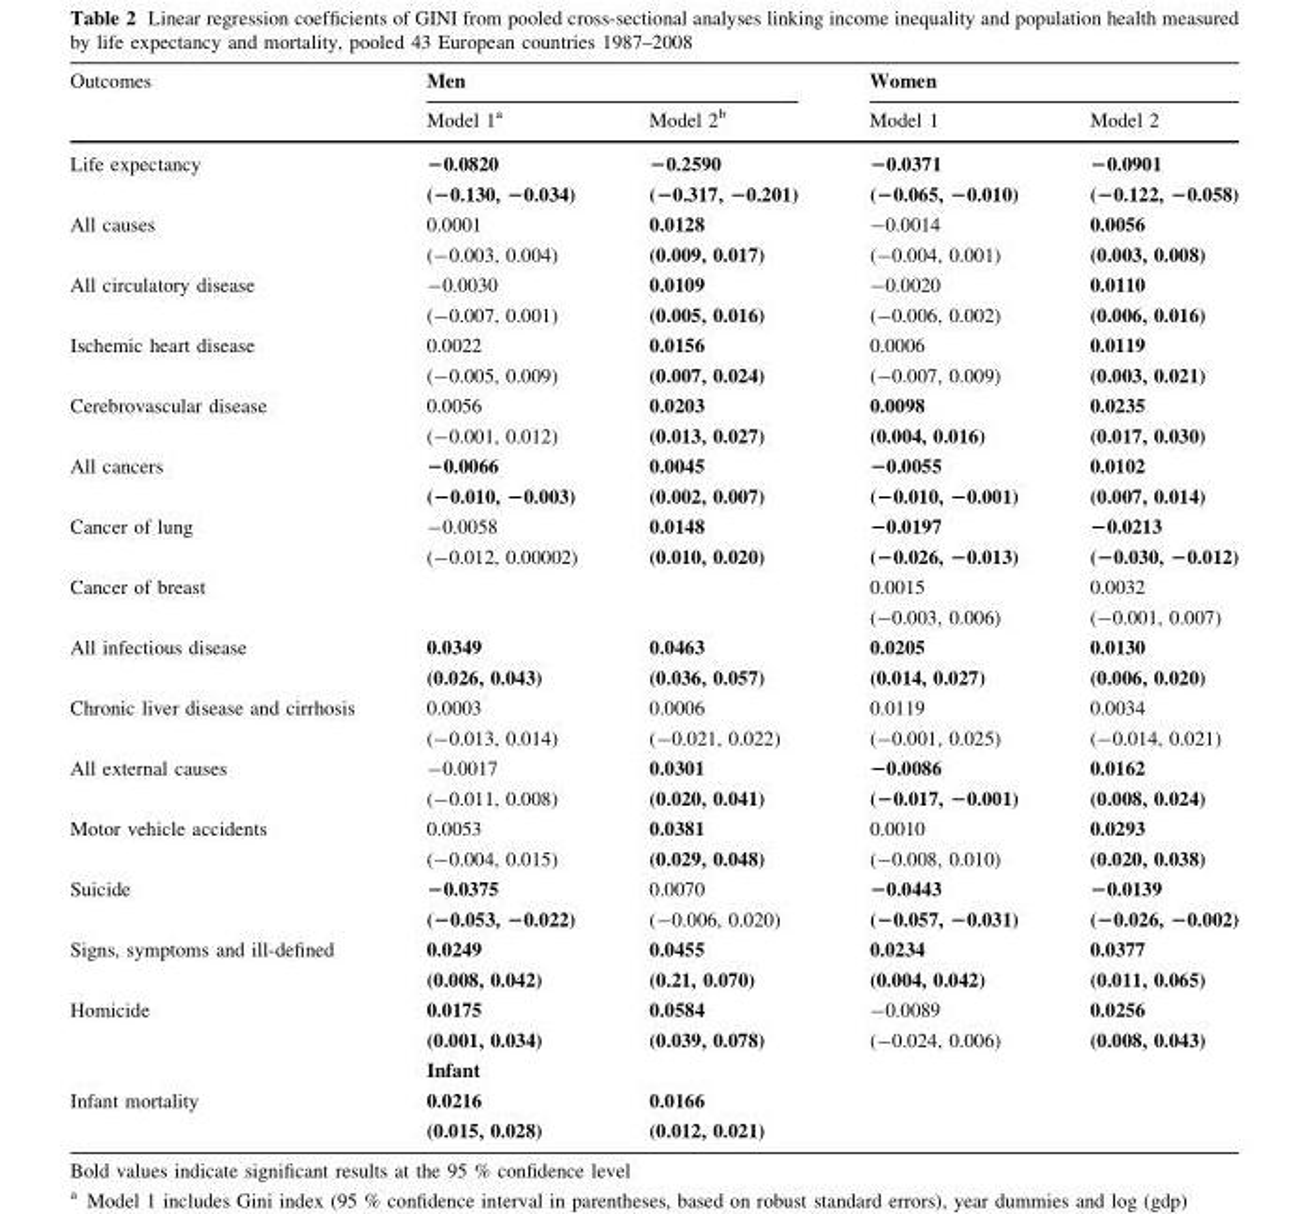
<table><thead><tr><td rowspan="2">Outcomes</td><td colspan="2">Men</td><td colspan="2">Women</td></tr><tr><td>Model 1<sup>a</sup></td><td>Model 2<sup>b</sup></td><td>Model 1</td><td>Model 2</td></tr></thead><tbody><tr><td>Life expectancy</td><td>−0.0820 (−0.130, −0.034)</td><td>−0.2590 (−0.317, −0.201)</td><td>−0.0371 (−0.065, −0.010)</td><td>−0.0901 (−0.122, −0.058)</td></tr><tr><td>All causes</td><td>0.0001 (-0.003, 0.004)</td><td>0.0128 (0.009, 0.017)</td><td>-0.0014 (-0.004, 0.001)</td><td>0.0056 (0.003, 0.008)</td></tr><tr><td>All circulatory disease</td><td>-0.0030 (-0.007, 0.001)</td><td>0.0109 (0.005, 0.016)</td><td>-0.0020 (-0.006, 0.002)</td><td>0.0110 (0.006, 0.016)</td></tr><tr><td>Ischemic heart disease</td><td>0.0022 (-0.005, 0.009)</td><td>0.0156 (0.007, 0.024)</td><td>0.0006 (-0.007, 0.009)</td><td>0.0119 (0.003, 0.021)</td></tr><tr><td>Cerebrovascular disease</td><td>0.0056 (-0.001, 0.012)</td><td>0.0203 (0.013, 0.027)</td><td>0.0098 (0.004, 0.016)</td><td>0.0235 (0.017, 0.030)</td></tr><tr><td>All cancers</td><td>−0.0066 (−0.010, −0.003)</td><td>0.0045 (0.002, 0.007)</td><td>−0.0055 (−0.010, −0.001)</td><td>0.0102 (0.007, 0.014)</td></tr><tr><td>Cancer of lung</td><td>-0.0058 (-0.012, 0.00002)</td><td>0.0148 (0.010, 0.020)</td><td>−0.0197 (−0.026, −0.013)</td><td>−0.0213 (−0.030, −0.012)</td></tr><tr><td>Cancer of breast</td><td></td><td></td><td>0.0015 (-0.003, 0.006)</td><td>0.0032 (-0.001, 0.007)</td></tr><tr><td>All infectious disease</td><td>0.0349 (0.026, 0.043)</td><td>0.0463 (0.036, 0.057)</td><td>0.0205 (0.014, 0.027)</td><td>0.0130 (0.006, 0.020)</td></tr><tr><td>Chronic liver disease and cirrhosis</td><td>0.0003 (-0.013, 0.014)</td><td>0.0006 (-0.021, 0.022)</td><td>0.0119 (-0.001, 0.025)</td><td>0.0034 (-0.014, 0.021)</td></tr><tr><td>All external causes</td><td>-0.0017 (-0.011, 0.008)</td><td>0.0301 (0.020, 0.041)</td><td>−0.0086 (−0.017, −0.001)</td><td>0.0162 (0.008, 0.024)</td></tr><tr><td>Motor vehicle accidents</td><td>0.0053 (-0.004, 0.015)</td><td>0.0381 (0.029, 0.048)</td><td>0.0010 (-0.008, 0.010)</td><td>0.0293 (0.020, 0.038)</td></tr><tr><td>Suicide</td><td>−0.0375 (−0.053, −0.022)</td><td>0.0070 (-0.006, 0.020)</td><td>−0.0443 (−0.057, −0.031)</td><td>−0.0139 (−0.026, −0.002)</td></tr><tr><td>Signs, symptoms and ill-defined</td><td>0.0249 (0.008, 0.042)</td><td>0.0455 (0.21, 0.070)</td><td>0.0234 (0.004, 0.042)</td><td>0.0377 (0.011, 0.065)</td></tr><tr><td rowspan="2">Homicide</td><td>0.0175 (0.001, 0.034)</td><td>0.0584 (0.039, 0.078)</td><td>-0.0089 (-0.024, 0.006)</td><td>0.0256 (0.008, 0.043)</td></tr><tr><td colspan="4">Infant</td></tr><tr><td>Infant mortality</td><td>0.0216 (0.015, 0.028)</td><td>0.0166 (0.012, 0.021)</td><td></td><td></td></tr></tbody></table>